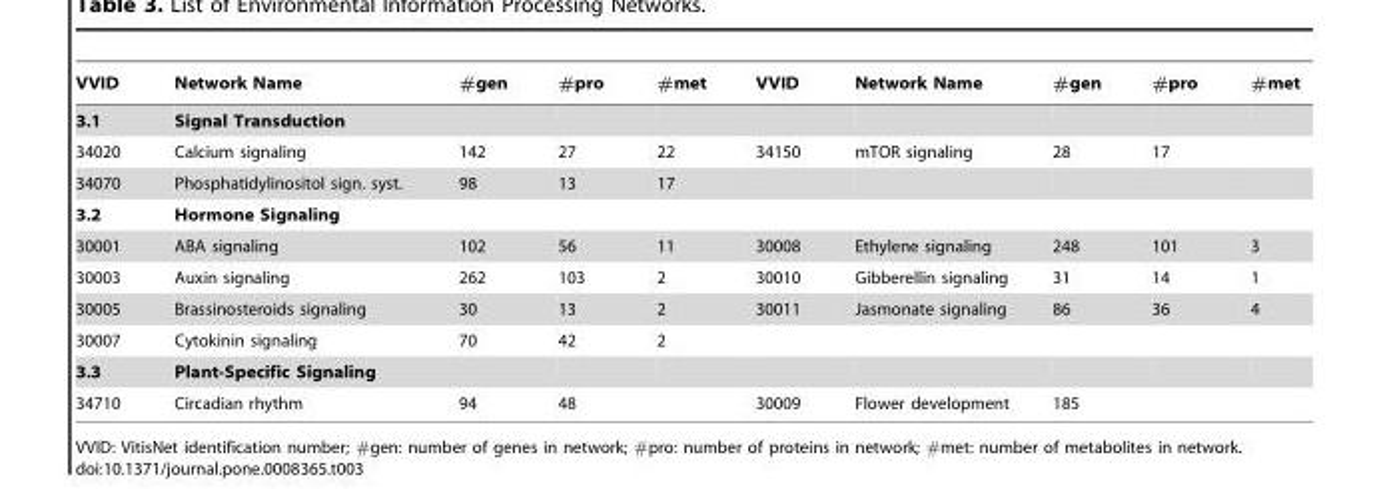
<table><thead><tr><td>VVID</td><td>Network Name</td><td>#gen</td><td>#pro</td><td>#met</td><td>VVID</td><td>Network Name</td><td>#gen</td><td>#pro</td><td>#met</td></tr></thead><tbody><tr><td>3.1</td><td>Signal Transduction</td><td></td><td></td><td></td><td></td><td></td><td></td><td></td><td></td></tr><tr><td>34020</td><td>Calcium signaling</td><td>142</td><td>27</td><td>22</td><td>34150</td><td>mTOR signaling</td><td>28</td><td>17</td><td></td></tr><tr><td>34070</td><td>Phosphatidylinositol sign. syst.</td><td>98</td><td>13</td><td>17</td><td></td><td></td><td></td><td></td><td></td></tr><tr><td>3.2</td><td>Hormone Signaling</td><td></td><td></td><td></td><td></td><td></td><td></td><td></td><td></td></tr><tr><td>30001</td><td>ABA signaling</td><td>102</td><td>56</td><td>11</td><td>30008</td><td>Ethylene signaling</td><td>248</td><td>101</td><td>3</td></tr><tr><td>30003</td><td>Auxin signaling</td><td>262</td><td>103</td><td>2</td><td>30010</td><td>Gibberellin signaling</td><td>31</td><td>14</td><td>1</td></tr><tr><td>30005</td><td>Brassinosteroids signaling</td><td>30</td><td>13</td><td>2</td><td>30011</td><td>Jasmonate signaling</td><td>86</td><td>36</td><td>4</td></tr><tr><td>30007</td><td>Cytokinin signaling</td><td>70</td><td>42</td><td>2</td><td></td><td></td><td></td><td></td><td></td></tr><tr><td>3.3</td><td>Plant-Specific Signaling</td><td></td><td></td><td></td><td></td><td></td><td></td><td></td><td></td></tr><tr><td>34710</td><td>Circadian rhythm</td><td>94</td><td>48</td><td></td><td>30009</td><td>Flower development</td><td>185</td><td></td><td></td></tr></tbody></table>